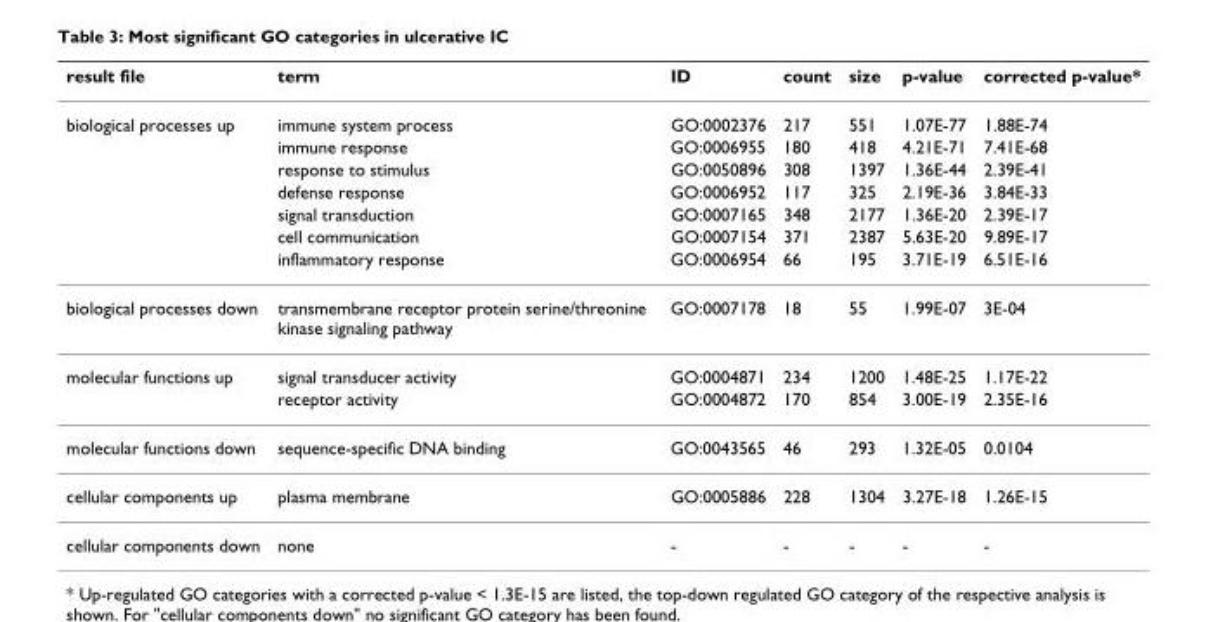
<table><thead><tr><td>result file</td><td>term</td><td>ID</td><td>count</td><td>size</td><td>p-value</td><td>corrected p-value*</td></tr></thead><tbody><tr><td rowspan="7">biological processes up</td><td>immune system process</td><td>GO:0002376</td><td>217</td><td>551</td><td>1.07E-77</td><td>1.88E-74</td></tr><tr><td>immune response</td><td>GO:0006955</td><td>180</td><td>418</td><td>4.21E-71</td><td>7.41E-68</td></tr><tr><td>response to stimulus</td><td>GO:0050896</td><td>308</td><td>1397</td><td>1.36E-44</td><td>2.39E-41</td></tr><tr><td>defense response</td><td>GO:0006952</td><td>117</td><td>325</td><td>2.19E-36</td><td>3.84E-33</td></tr><tr><td>signal transduction</td><td>GO:0007165</td><td>348</td><td>2177</td><td>1.36E-20</td><td>2.39E-17</td></tr><tr><td>cell communication</td><td>GO:0007154</td><td>371</td><td>2387</td><td>5.63E-20</td><td>9.89E-17</td></tr><tr><td>inflammatory response</td><td>GO:0006954</td><td>66</td><td>195</td><td>3.71E-19</td><td>6.51E-16</td></tr><tr><td>biological processes down</td><td>transmembrane receptor protein serine/threonine kinase signaling pathway</td><td>GO:0007178</td><td>18</td><td>55</td><td>1.99E-07</td><td>3E-04</td></tr><tr><td rowspan="2">molecular functions up</td><td>signal transducer activity</td><td>GO:0004871</td><td>234</td><td>1200</td><td>1.48E-25</td><td>1.17E-22</td></tr><tr><td>receptor activity</td><td>GO:0004872</td><td>170</td><td>854</td><td>3.00E-19</td><td>2.35E-16</td></tr><tr><td>molecular functions down</td><td>sequence-specific DNA binding</td><td>GO:0043565</td><td>46</td><td>293</td><td>1.32E-05</td><td>0.0104</td></tr><tr><td>cellular components up</td><td>plasma membrane</td><td>GO:0005886</td><td>228</td><td>1304</td><td>3.27E-18</td><td>1.26E-15</td></tr><tr><td>cellular components down</td><td>none</td><td>-</td><td>-</td><td>-</td><td>-</td><td>-</td></tr></tbody></table>